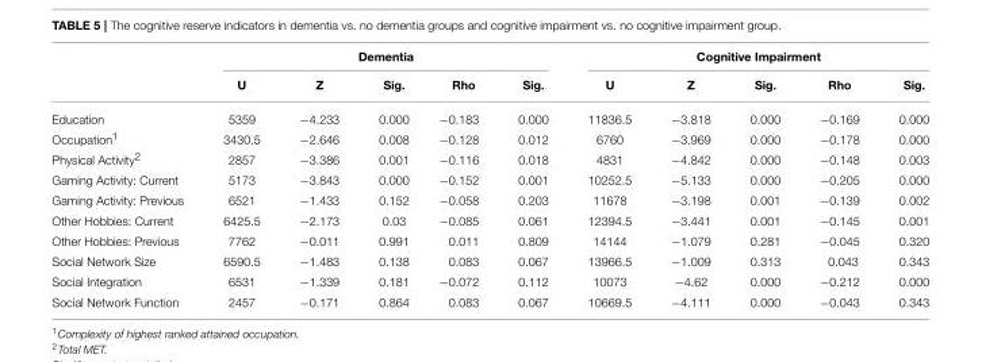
<table><thead><tr><td rowspan="2"></td><td colspan="5">Dementia</td><td colspan="5">Cognitive Impairment</td></tr><tr><td>U</td><td>Z</td><td>Sig.</td><td>Rho</td><td>Sig.</td><td>U</td><td>Z</td><td>Sig.</td><td>Rho</td><td>Sig.</td></tr></thead><tbody><tr><td>Education</td><td>5359</td><td>−4.233</td><td>0.000</td><td>−0.183</td><td>0.000</td><td>11836.5</td><td>−3.818</td><td>0.000</td><td>−0.169</td><td>0.000</td></tr><tr><td>Occupation<sup>1</sup></td><td>3430.5</td><td>−2.646</td><td>0.008</td><td>−0.128</td><td>0.012</td><td>6760</td><td>−3.969</td><td>0.000</td><td>−0.178</td><td>0.000</td></tr><tr><td>Physical Activity<sup>2</sup></td><td>2857</td><td>−3.386</td><td>0.001</td><td>−0.116</td><td>0.018</td><td>4831</td><td>−4.842</td><td>0.000</td><td>−0.148</td><td>0.003</td></tr><tr><td>Gaming Activity: Current</td><td>5173</td><td>−3.843</td><td>0.000</td><td>−0.152</td><td>0.001</td><td>10252.5</td><td>−5.133</td><td>0.000</td><td>−0.205</td><td>0.000</td></tr><tr><td>Gaming Activity: Previous</td><td>6521</td><td>−1.433</td><td>0.152</td><td>−0.058</td><td>0.203</td><td>11678</td><td>−3.198</td><td>0.001</td><td>−0.139</td><td>0.002</td></tr><tr><td>Other Hobbies: Current</td><td>6425.5</td><td>−2.173</td><td>0.03</td><td>−0.085</td><td>0.061</td><td>12394.5</td><td>−3.441</td><td>0.001</td><td>−0.145</td><td>0.001</td></tr><tr><td>Other Hobbies: Previous</td><td>7762</td><td>−0.011</td><td>0.991</td><td>0.011</td><td>0.809</td><td>14144</td><td>−1.079</td><td>0.281</td><td>−0.045</td><td>0.320</td></tr><tr><td>Social Network Size</td><td>6590.5</td><td>−1.483</td><td>0.138</td><td>0.083</td><td>0.067</td><td>13966.5</td><td>−1.009</td><td>0.313</td><td>0.043</td><td>0.343</td></tr><tr><td>Social Integration</td><td>6531</td><td>−1.339</td><td>0.181</td><td>−0.072</td><td>0.112</td><td>10073</td><td>−4.62</td><td>0.000</td><td>−0.212</td><td>0.000</td></tr><tr><td>Social Network Function</td><td>2457</td><td>−0.171</td><td>0.864</td><td>0.083</td><td>0.067</td><td>10669.5</td><td>−4.111</td><td>0.000</td><td>−0.043</td><td>0.343</td></tr></tbody></table>